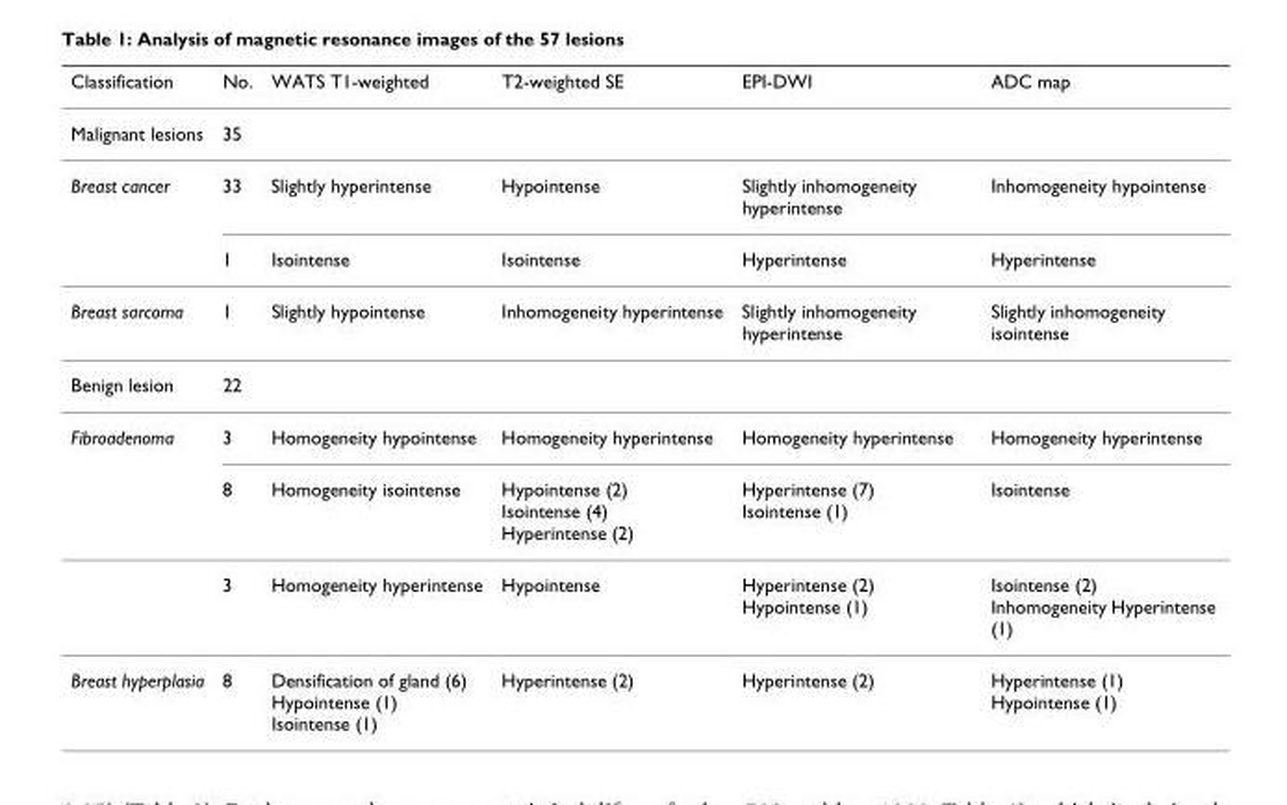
<table><thead><tr><td>Classification</td><td>No.</td><td>WATS T1-weighted</td><td>T2-weighted SE</td><td>EPI-DWI</td><td>ADC map</td></tr></thead><tbody><tr><td>Malignant lesions</td><td>35</td><td></td><td></td><td></td><td></td></tr><tr><td rowspan="2">Breast cancer</td><td>33</td><td>Slightly hyperintense</td><td>Hypointense</td><td>Slightly inhomogeneity hyperintense</td><td>Inhomogeneity hypointense</td></tr><tr><td>1</td><td>Isointense</td><td>Isointense</td><td>Hyperintense</td><td>Hyperintense</td></tr><tr><td>Breast sarcoma</td><td>1</td><td>Slightly hypointense</td><td>Inhomogeneity hyperintense</td><td>Slightly inhomogeneity hyperintense</td><td>Slightly inhomogeneity isointense</td></tr><tr><td>Benign lesion</td><td>22</td><td></td><td></td><td></td><td></td></tr><tr><td rowspan="3">Fibroadenoma</td><td>3</td><td>Homogeneity hypointense</td><td>Homogeneity hyperintense</td><td>Homogeneity hyperintense</td><td>Homogeneity hyperintense</td></tr><tr><td>8</td><td>Homogeneity isointense</td><td>Hypointense (2) Isointense (4) Hyperintense (2)</td><td>Hyperintense (7) Isointense (1)</td><td>Isointense</td></tr><tr><td>3</td><td>Homogeneity hyperintense</td><td>Hypointense</td><td>Hyperintense (2) Hypointense (1)</td><td>Isointense (2) Inhomogeneity Hyperintense (1)</td></tr><tr><td>Breast hyperplasia</td><td>8</td><td>Densification of gland (6) Hypointense (1) Isointense (1)</td><td>Hyperintense (2)</td><td>Hyperintense (2)</td><td>Hyperintense (1) Hypointense (1)</td></tr></tbody></table>